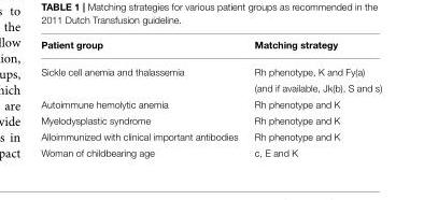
<table><thead><tr><td>Patient group</td><td>Matching strategy</td></tr></thead><tbody><tr><td rowspan="2">Sickle cell anemia and thalassemia</td><td>Rh phenotype, K and Fy(a)</td></tr><tr><td>(and if available, Jk(b), S and s)</td></tr><tr><td>Autoimmune hemolytic anemia</td><td>Rh phenotype and K</td></tr><tr><td>Myelodysplastic syndrome</td><td>Rh phenotype and K</td></tr><tr><td>Alloimmunized with clinical important antibodies</td><td>Rh phenotype and K</td></tr><tr><td>Woman of childbearing age</td><td>c, E and K</td></tr></tbody></table>